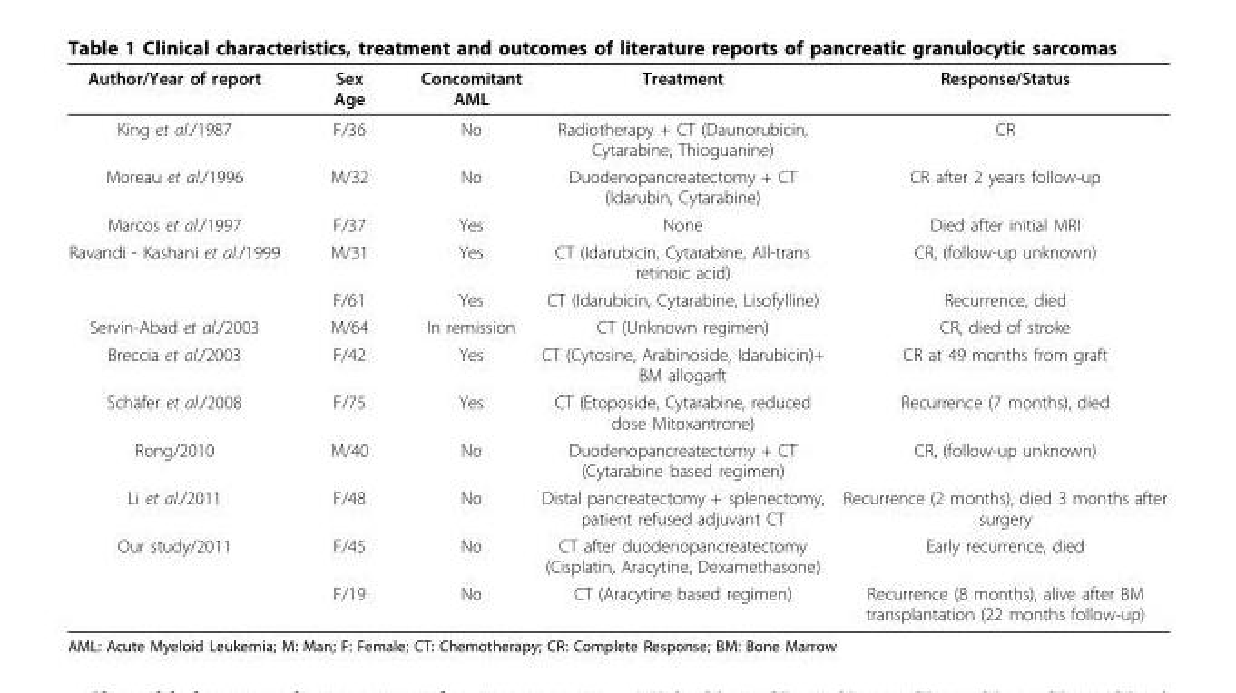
<table><thead><tr><td>Author/Year of report</td><td>Sex Age</td><td>Concomitant AML</td><td>Treatment</td><td>Response/Status</td></tr></thead><tbody><tr><td>King et al./1987</td><td>F/36</td><td>No</td><td>Radiotherapy + CT (Daunorubicin, Cytarabine, Thioguanine)</td><td>CR</td></tr><tr><td>Moreau et al./1996</td><td>M/32</td><td>No</td><td>Duodenopancreatectomy + CT (Idarubin, Cytarabine)</td><td>CR after 2 years follow-up</td></tr><tr><td>Marcos et al./1997</td><td>F/37</td><td>Yes</td><td>None</td><td>Died after initial MRI</td></tr><tr><td rowspan="2">Ravandi - Kashani et al./1999</td><td>M/31</td><td>Yes</td><td>CT (Idarubicin, Cytarabine, All-trans retinoic acid)</td><td>CR, (follow-up unknown)</td></tr><tr><td>F/61</td><td>Yes</td><td>CT (Idarubicin, Cytarabine, Lisofylline)</td><td>Recurrence, died</td></tr><tr><td>Servin-Abad et al./2003</td><td>M/64</td><td>In remission</td><td>CT (Unknown regimen)</td><td>CR, died of stroke</td></tr><tr><td>Breccia et al./2003</td><td>F/42</td><td>Yes</td><td>CT (Cytosine, Arabinoside, Idarubicin)+ BM allogarft</td><td>CR at 49 months from graft</td></tr><tr><td>Schäfer et al./2008</td><td>F/75</td><td>Yes</td><td>CT (Etoposide, Cytarabine, reduced dose Mitoxantrone)</td><td>Recurrence (7 months), died</td></tr><tr><td>Rong/2010</td><td>M/40</td><td>No</td><td>Duodenopancreatectomy + CT (Cytarabine based regimen)</td><td>CR, (follow-up unknown)</td></tr><tr><td>Li et al./2011</td><td>F/48</td><td>No</td><td>Distal pancreatectomy + splenectomy, patient refused adjuvant CT</td><td>Recurrence (2 months), died 3 months after surgery</td></tr><tr><td rowspan="2">Our study/2011</td><td>F/45</td><td>No</td><td>CT after duodenopancreatectomy (Cisplatin, Aracytine, Dexamethasone)</td><td>Early recurrence, died</td></tr><tr><td>F/19</td><td>No</td><td>CT (Aracytine based regimen)</td><td>Recurrence (8 months), alive after BM transplantation (22 months follow-up)</td></tr></tbody></table>